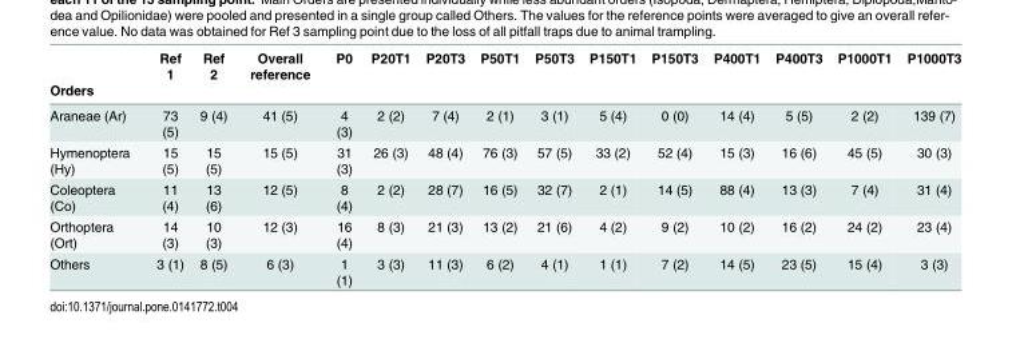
<table><thead><tr><td rowspan="2">Orders</td><td rowspan="2">Ref 1</td><td rowspan="2">Ref 2</td><td rowspan="2">Overall reference</td><td rowspan="2">P0</td><td rowspan="2">P20T1</td><td rowspan="2">P20T3</td><td rowspan="2">P50T1</td><td rowspan="2">P50T3</td><td rowspan="2">P150T1</td><td rowspan="2">P150T3</td><td rowspan="2">P400T1</td><td rowspan="2">P400T3</td><td rowspan="2">P1000T1</td><td rowspan="2">P1000T3</td></tr><tr></tr></thead><tbody><tr><td>Araneae (Ar)</td><td>73 (5)</td><td>9 (4)</td><td>41 (5)</td><td>4 (3)</td><td>2 (2)</td><td>7 (4)</td><td>2 (1)</td><td>3 (1)</td><td>5 (4)</td><td>0 (0)</td><td>14 (4)</td><td>5 (5)</td><td>2 (2)</td><td>139 (7)</td></tr><tr><td>Hymenoptera (Hy)</td><td>15 (5)</td><td>15 (5)</td><td>15 (5)</td><td>31 (3)</td><td>26 (3)</td><td>48 (4)</td><td>76 (3)</td><td>57 (5)</td><td>33 (2)</td><td>52 (4)</td><td>15 (3)</td><td>16 (6)</td><td>45 (5)</td><td>30 (3)</td></tr><tr><td>Coleoptera (Co)</td><td>11 (4)</td><td>13 (6)</td><td>12 (5)</td><td>8 (4)</td><td>2 (2)</td><td>28 (7)</td><td>16 (5)</td><td>32 (7)</td><td>2 (1)</td><td>14 (5)</td><td>88 (4)</td><td>13 (3)</td><td>7 (4)</td><td>31 (4)</td></tr><tr><td>Orthoptera (Ort)</td><td>14 (3)</td><td>10 (3)</td><td>12 (3)</td><td>16 (4)</td><td>8 (3)</td><td>21 (3)</td><td>13 (2)</td><td>21 (6)</td><td>4 (2)</td><td>9 (2)</td><td>10 (2)</td><td>16 (2)</td><td>24 (2)</td><td>23 (4)</td></tr><tr><td>Others</td><td>3 (1)</td><td>8 (5)</td><td>6 (3)</td><td>1 (1)</td><td>3 (3)</td><td>11 (3)</td><td>6 (2)</td><td>4 (1)</td><td>1 (1)</td><td>7 (2)</td><td>14 (5)</td><td>23 (5)</td><td>15 (4)</td><td>3 (3)</td></tr></tbody></table>